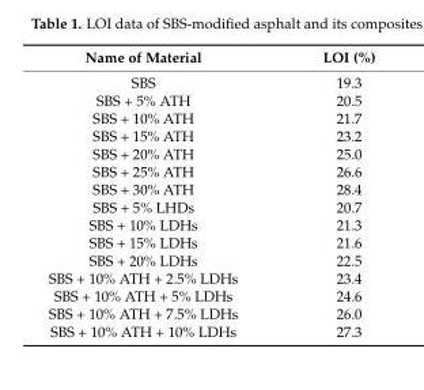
<table><thead><tr><td>Name of Material</td><td>LOI (%)</td></tr></thead><tbody><tr><td>SBS</td><td>19.3</td></tr><tr><td>SBS + 5% ATH</td><td>20.5</td></tr><tr><td>SBS + 10% ATH</td><td>21.7</td></tr><tr><td>SBS + 15% ATH</td><td>23.2</td></tr><tr><td>SBS + 20% ATH</td><td>25.0</td></tr><tr><td>SBS + 25% ATH</td><td>26.6</td></tr><tr><td>SBS + 30% ATH</td><td>28.4</td></tr><tr><td>SBS + 5% LHDs</td><td>20.7</td></tr><tr><td>SBS + 10% LDHs</td><td>21.3</td></tr><tr><td>SBS + 15% LDHs</td><td>21.6</td></tr><tr><td>SBS + 20% LDHs</td><td>22.5</td></tr><tr><td>SBS + 10% ATH + 2.5% LDHs</td><td>23.4</td></tr><tr><td>SBS + 10% ATH + 5% LDHs</td><td>24.6</td></tr><tr><td>SBS + 10% ATH + 7.5% LDHs</td><td>26.0</td></tr><tr><td>SBS + 10% ATH + 10% LDHs</td><td>27.3</td></tr></tbody></table>